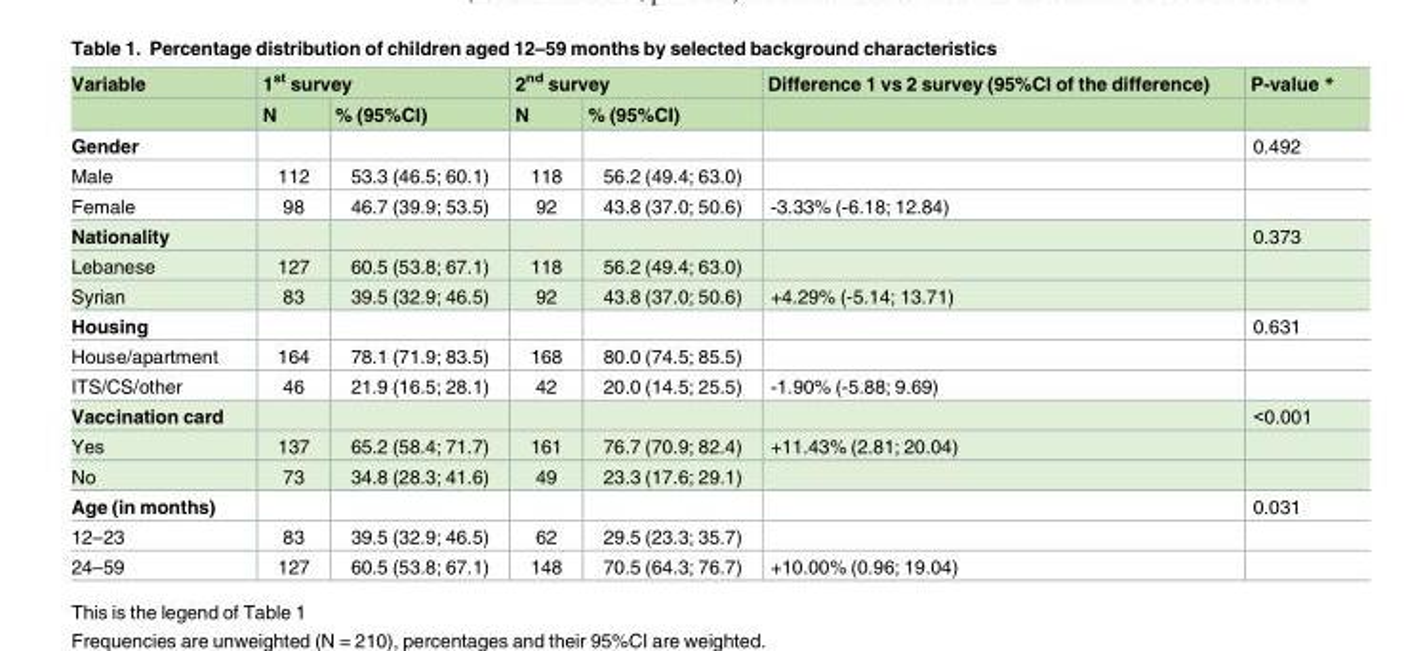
<table><thead><tr><td rowspan="2">Variable</td><td colspan="2">1<sup>st</sup> survey</td><td colspan="2">2<sup>nd</sup> survey</td><td rowspan="2">Difference 1 vs 2 survey (95%CI of the difference)</td><td rowspan="2">P-value *</td></tr><tr><td>N</td><td>% (95%CI)</td><td>N</td><td>% (95%CI)</td></tr></thead><tbody><tr><td>Gender</td><td></td><td></td><td></td><td></td><td></td><td>0.492</td></tr><tr><td>Male</td><td>112</td><td>53.3 (46.5; 60.1)</td><td>118</td><td>56.2 (49.4; 63.0)</td><td></td><td></td></tr><tr><td>Female</td><td>98</td><td>46.7 (39.9; 53.5)</td><td>92</td><td>43.8 (37.0; 50.6)</td><td>-3.33% (-6.18; 12.84)</td><td></td></tr><tr><td>Nationality</td><td></td><td></td><td></td><td></td><td></td><td>0.373</td></tr><tr><td>Lebanese</td><td>127</td><td>60.5 (53.8; 67.1)</td><td>118</td><td>56.2 (49.4; 63.0)</td><td></td><td></td></tr><tr><td>Syrian</td><td>83</td><td>39.5 (32.9; 46.5)</td><td>92</td><td>43.8 (37.0; 50.6)</td><td>+4.29% (-5.14; 13.71)</td><td></td></tr><tr><td>Housing</td><td></td><td></td><td></td><td></td><td></td><td>0.631</td></tr><tr><td>House/apartment</td><td>164</td><td>78.1 (71.9; 83.5)</td><td>168</td><td>80.0 (74.5; 85.5)</td><td></td><td></td></tr><tr><td>ITS/CS/other</td><td>46</td><td>21.9 (16.5; 28.1)</td><td>42</td><td>20.0 (14.5; 25.5)</td><td>-1.90% (-5.88; 9.69)</td><td></td></tr><tr><td>Vaccination card</td><td></td><td></td><td></td><td></td><td></td><td>&lt;0.001</td></tr><tr><td>Yes</td><td>137</td><td>65.2 (58.4; 71.7)</td><td>161</td><td>76.7 (70.9; 82.4)</td><td>+11.43% (2.81; 20.04)</td><td></td></tr><tr><td>No</td><td>73</td><td>34.8 (28.3; 41.6)</td><td>49</td><td>23.3 (17.6; 29.1)</td><td></td><td></td></tr><tr><td>Age (in months)</td><td></td><td></td><td></td><td></td><td></td><td>0.031</td></tr><tr><td>12–23</td><td>83</td><td>39.5 (32.9; 46.5)</td><td>62</td><td>29.5 (23.3; 35.7)</td><td></td><td></td></tr><tr><td>24–59</td><td>127</td><td>60.5 (53.8; 67.1)</td><td>148</td><td>70.5 (64.3; 76.7)</td><td>+10.00% (0.96; 19.04)</td><td></td></tr></tbody></table>